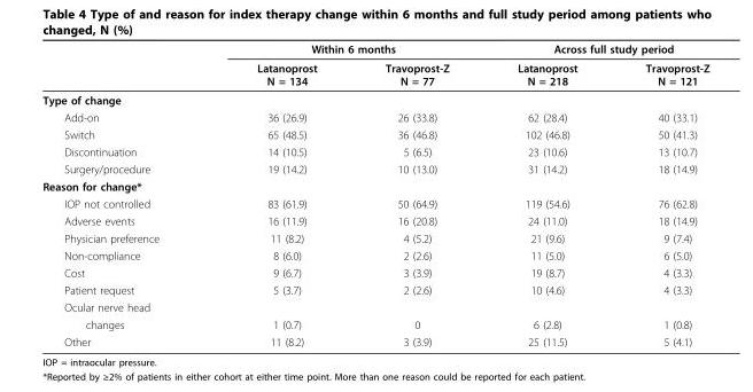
<table><thead><tr><td rowspan="2"></td><td colspan="2">Within 6 months</td><td colspan="2">Across full study period</td></tr><tr><td>Latanoprost N = 134</td><td>Travoprost-Z N = 77</td><td>Latanoprost N = 218</td><td>Travoprost-Z N = 121</td></tr></thead><tbody><tr><td colspan="5">Type of change</td></tr><tr><td>Add-on</td><td>36 (26.9)</td><td>26 (33.8)</td><td>62 (28.4)</td><td>40 (33.1)</td></tr><tr><td>Switch</td><td>65 (48.5)</td><td>36 (46.8)</td><td>102 (46.8)</td><td>50 (41.3)</td></tr><tr><td>Discontinuation</td><td>14 (10.5)</td><td>5 (6.5)</td><td>23 (10.6)</td><td>13 (10.7)</td></tr><tr><td>Surgery/procedure</td><td>19 (14.2)</td><td>10 (13.0)</td><td>31 (14.2)</td><td>18 (14.9)</td></tr><tr><td colspan="5">Reason for change*</td></tr><tr><td>IOP not controlled</td><td>83 (61.9)</td><td>50 (64.9)</td><td>119 (54.6)</td><td>76 (62.8)</td></tr><tr><td>Adverse events</td><td>16 (11.9)</td><td>16 (20.8)</td><td>24 (11.0)</td><td>18 (14.9)</td></tr><tr><td>Physician preference</td><td>11 (8.2)</td><td>4 (5.2)</td><td>21 (9.6)</td><td>9 (7.4)</td></tr><tr><td>Non-compliance</td><td>8 (6.0)</td><td>2 (2.6)</td><td>11 (5.0)</td><td>6 (5.0)</td></tr><tr><td>Cost</td><td>9 (6.7)</td><td>3 (3.9)</td><td>19 (8.7)</td><td>4 (3.3)</td></tr><tr><td>Patient request</td><td>5 (3.7)</td><td>2 (2.6)</td><td>10 (4.6)</td><td>4 (3.3)</td></tr><tr><td colspan="5">Ocular nerve head</td></tr><tr><td>changes</td><td>1 (0.7)</td><td>0</td><td>6 (2.8)</td><td>1 (0.8)</td></tr><tr><td>Other</td><td>11 (8.2)</td><td>3 (3.9)</td><td>25 (11.5)</td><td>5 (4.1)</td></tr></tbody></table>